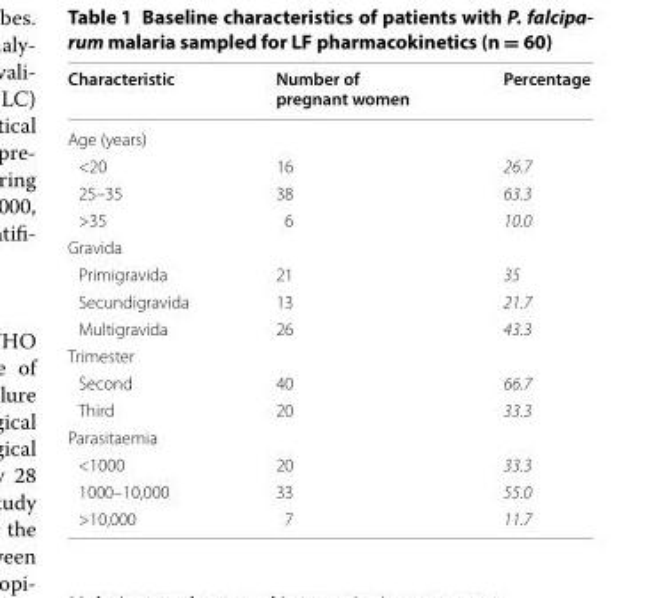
<table><thead><tr><td>Characteristic</td><td>Number of pregnant women</td><td>Percentage</td></tr></thead><tbody><tr><td colspan="3">Age (years)</td></tr><tr><td>&lt;20</td><td>16</td><td>26.7</td></tr><tr><td>25–35</td><td>38</td><td>63.3</td></tr><tr><td>&gt;35</td><td>6</td><td>10.0</td></tr><tr><td colspan="3">Gravida</td></tr><tr><td>Primigravida</td><td>21</td><td>35</td></tr><tr><td>Secundigravida</td><td>13</td><td>21.7</td></tr><tr><td>Multigravida</td><td>26</td><td>43.3</td></tr><tr><td colspan="3">Trimester</td></tr><tr><td>Second</td><td>40</td><td>66.7</td></tr><tr><td>Third</td><td>20</td><td>33.3</td></tr><tr><td colspan="3">Parasitaemia</td></tr><tr><td>&lt;1000</td><td>20</td><td>33.3</td></tr><tr><td>1000–10,000</td><td>33</td><td>55.0</td></tr><tr><td>&gt;10,000</td><td>7</td><td>11.7</td></tr></tbody></table>